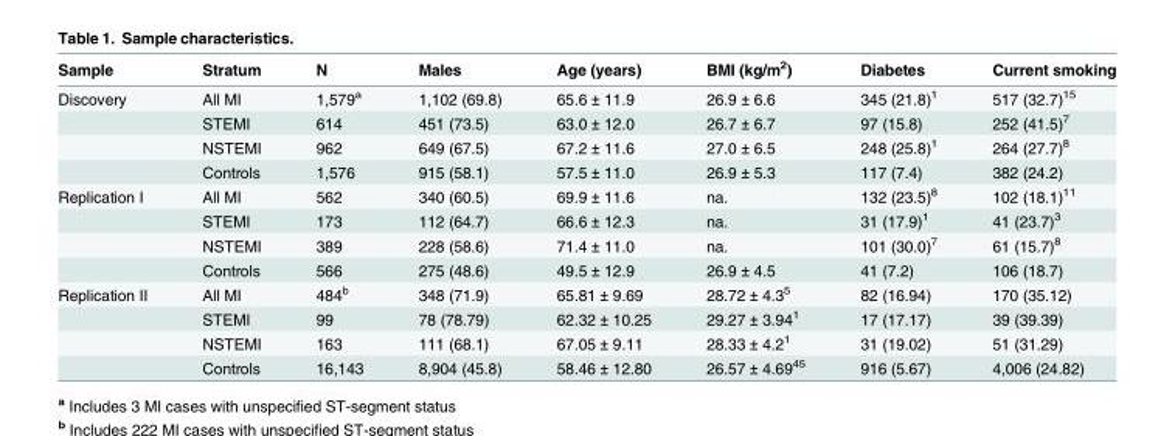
<table><thead><tr><td>Sample</td><td>Stratum</td><td>N</td><td>Males</td><td>Age (years)</td><td>BMI (kg/m<sup>2</sup>)</td><td>Diabetes</td><td>Current smoking</td></tr></thead><tbody><tr><td rowspan="4">Discovery</td><td>All MI</td><td>1,579<sup>a</sup></td><td>1,102 (69.8)</td><td>65.6 ± 11.9</td><td>26.9 ± 6.6</td><td>345 (21.8)<sup>1</sup></td><td>517 (32.7)<sup>15</sup></td></tr><tr><td>STEMI</td><td>614</td><td>451 (73.5)</td><td>63.0 ± 12.0</td><td>26.7 ± 6.7</td><td>97 (15.8)</td><td>252 (41.5)<sup>7</sup></td></tr><tr><td>NSTEMI</td><td>962</td><td>649 (67.5)</td><td>67.2 ± 11.6</td><td>27.0 ± 6.5</td><td>248 (25.8)<sup>1</sup></td><td>264 (27.7)<sup>8</sup></td></tr><tr><td>Controls</td><td>1,576</td><td>915 (58.1)</td><td>57.5 ± 11.0</td><td>26.9 ± 5.3</td><td>117 (7.4)</td><td>382 (24.2)</td></tr><tr><td rowspan="4">Replication I</td><td>All MI</td><td>562</td><td>340 (60.5)</td><td>69.9 ± 11.6</td><td>na.</td><td>132 (23.5)<sup>8</sup></td><td>102 (18.1)<sup>11</sup></td></tr><tr><td>STEMI</td><td>173</td><td>112 (64.7)</td><td>66.6 ± 12.3</td><td>na.</td><td>31 (17.9)<sup>1</sup></td><td>41 (23.7)<sup>3</sup></td></tr><tr><td>NSTEMI</td><td>389</td><td>228 (58.6)</td><td>71.4 ± 11.0</td><td>na.</td><td>101 (30.0)<sup>7</sup></td><td>61 (15.7)<sup>8</sup></td></tr><tr><td>Controls</td><td>566</td><td>275 (48.6)</td><td>49.5 ± 12.9</td><td>26.9 ± 4.5</td><td>41 (7.2)</td><td>106 (18.7)</td></tr><tr><td rowspan="4">Replication II</td><td>All MI</td><td>484<sup>b</sup></td><td>348 (71.9)</td><td>65.81 ± 9.69</td><td>28.72 ± 4.3<sup>5</sup></td><td>82 (16.94)</td><td>170 (35.12)</td></tr><tr><td>STEMI</td><td>99</td><td>78 (78.79)</td><td>62.32 ± 10.25</td><td>29.27 ± 3.94<sup>1</sup></td><td>17 (17.17)</td><td>39 (39.39)</td></tr><tr><td>NSTEMI</td><td>163</td><td>111 (68.1)</td><td>67.05 ± 9.11</td><td>28.33 ± 4.2<sup>1</sup></td><td>31 (19.02)</td><td>51 (31.29)</td></tr><tr><td>Controls</td><td>16,143</td><td>8,904 (45.8)</td><td>58.46 ± 12.80</td><td>26.57 ± 4.69<sup>45</sup></td><td>916 (5.67)</td><td>4,006 (24.82)</td></tr></tbody></table>